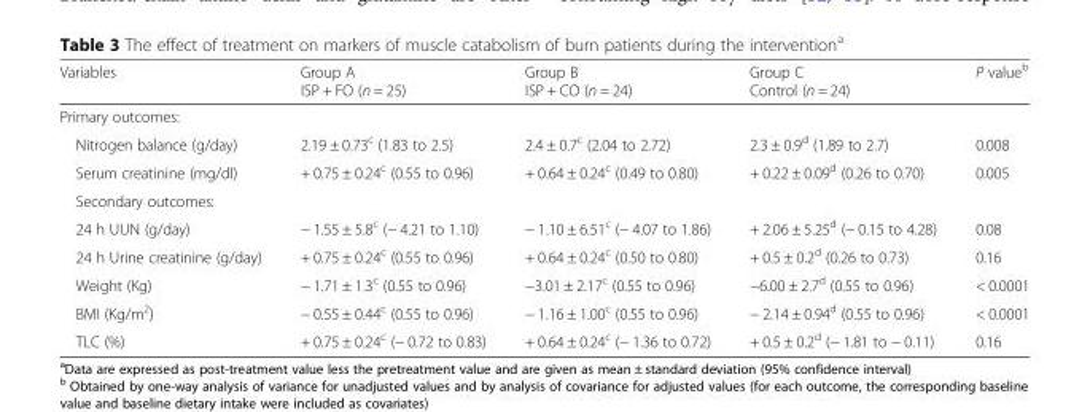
<table><thead><tr><td>Variables</td><td>Group A ISP + FO (n = 25)</td><td>Group B ISP + CO (n = 24)</td><td>Group C Control (n = 24)</td><td>P value<sup>b</sup></td></tr></thead><tbody><tr><td colspan="5">Primary outcomes:</td></tr><tr><td>Nitrogen balance (g/day)</td><td>2.19 ± 0.73<sup>c</sup> (1.83 to 2.5)</td><td>2.4 ± 0.7<sup>c</sup> (2.04 to 2.72)</td><td>2.3 ± 0.9<sup>d</sup> (1.89 to 2.7)</td><td>0.008</td></tr><tr><td>Serum creatinine (mg/dl)</td><td>+ 0.75 ± 0.24<sup>c</sup> (0.55 to 0.96)</td><td>+ 0.64 ± 0.24<sup>c</sup> (0.49 to 0.80)</td><td>+ 0.22 ± 0.09<sup>d</sup> (0.26 to 0.70)</td><td>0.005</td></tr><tr><td colspan="5">Secondary outcomes:</td></tr><tr><td>24 h UUN (g/day)</td><td>− 1.55 ± 5.8<sup>c</sup> (− 4.21 to 1.10)</td><td>− 1.10 ± 6.51<sup>c</sup> (− 4.07 to 1.86)</td><td>+ 2.06 ± 5.25<sup>d</sup> (− 0.15 to 4.28)</td><td>0.08</td></tr><tr><td>24 h Urine creatinine (g/day)</td><td>+ 0.75 ± 0.24<sup>c</sup> (0.55 to 0.96)</td><td>+ 0.64 ± 0.24<sup>c</sup> (0.50 to 0.80)</td><td>+ 0.5 ± 0.2<sup>d</sup> (0.26 to 0.73)</td><td>0.16</td></tr><tr><td>Weight (Kg)</td><td>− 1.71 ± 1.3<sup>c</sup> (0.55 to 0.96)</td><td>−3.01 ± 2.17<sup>c</sup> (0.55 to 0.96)</td><td>−6.00 ± 2.7<sup>d</sup> (0.55 to 0.96)</td><td>&lt; 0.0001</td></tr><tr><td>BMI (Kg/m<sup>2</sup>)</td><td>− 0.55 ± 0.44<sup>c</sup> (0.55 to 0.96)</td><td>− 1.16 ± 1.00<sup>c</sup> (0.55 to 0.96)</td><td>− 2.14 ± 0.94<sup>d</sup> (0.55 to 0.96)</td><td>&lt; 0.0001</td></tr><tr><td>TLC (%)</td><td>+ 0.75 ± 0.24<sup>c</sup> (− 0.72 to 0.83)</td><td>+ 0.64 ± 0.24<sup>c</sup> (− 1.36 to 0.72)</td><td>+ 0.5 ± 0.2<sup>d</sup> (− 1.81 to − 0.11)</td><td>0.16</td></tr></tbody></table>